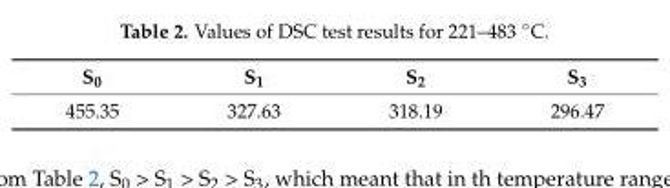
<table><thead><tr><td>S<sub>0</sub></td><td>S<sub>1</sub></td><td>S<sub>2</sub></td><td>S<sub>3</sub></td></tr></thead><tbody><tr><td>455.35</td><td>327.63</td><td>318.19</td><td>296.47</td></tr></tbody></table>